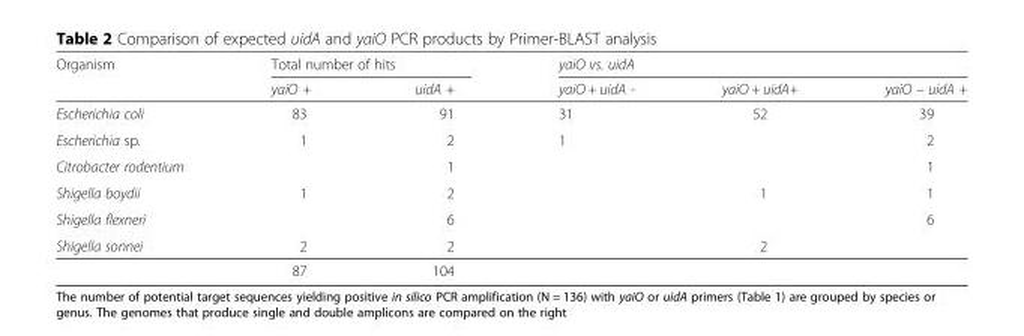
<table><thead><tr><td rowspan="2">Organism</td><td colspan="2">Total number of hits</td><td colspan="3">yaiO vs. uidA</td></tr><tr><td>yaiO +</td><td>uidA +</td><td>yaiO + uidA -</td><td>yaiO + uidA+</td><td>yaiO – uidA +</td></tr></thead><tbody><tr><td>Escherichia coli</td><td>83</td><td>91</td><td>31</td><td>52</td><td>39</td></tr><tr><td>Escherichia sp.</td><td>1</td><td>2</td><td>1</td><td></td><td>2</td></tr><tr><td>Citrobacter rodentium</td><td></td><td>1</td><td></td><td></td><td>1</td></tr><tr><td>Shigella boydii</td><td>1</td><td>2</td><td></td><td>1</td><td>1</td></tr><tr><td>Shigella flexneri</td><td></td><td>6</td><td></td><td></td><td>6</td></tr><tr><td rowspan="2">Shigella sonnei</td><td>2</td><td>2</td><td></td><td>2</td><td></td></tr><tr><td>87</td><td>104</td><td></td><td></td><td></td></tr></tbody></table>